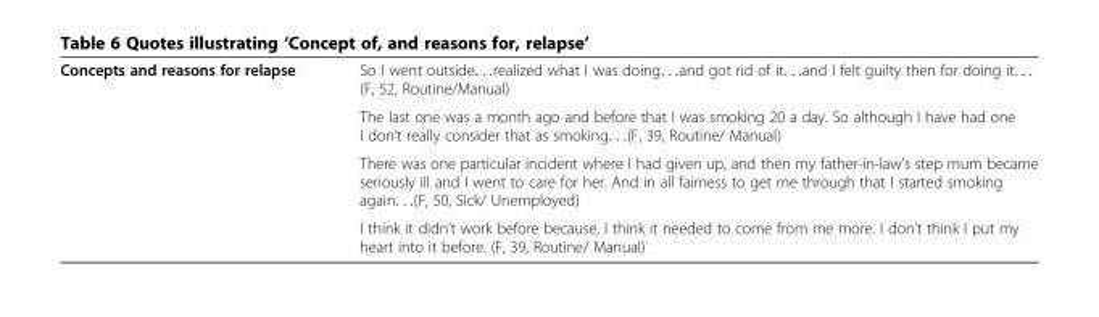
<table><tbody><tr><td rowspan="4">Concepts and reasons for relapse</td><td>So I went outside. . .realized what I was doing. . .and got rid of it. . .and I felt guilty then for doing it. . . (F, 52, Routine/Manual)</td></tr><tr><td>The last one was a month ago and before that I was smoking 20 a day. So although I have had one I don’t really consider that as smoking. . .(F, 39, Routine/ Manual)</td></tr><tr><td>There was one particular incident where I had given up, and then my father-in-law’s step mum became seriously ill and I went to care for her. And in all fairness to get me through that I started smoking again. . .(F, 50, Sick/ Unemployed)</td></tr><tr><td>I think it didn’t work before because, I think it needed to come from me more. I don’t think I put my heart into it before. (F, 39, Routine/ Manual)</td></tr></tbody></table>